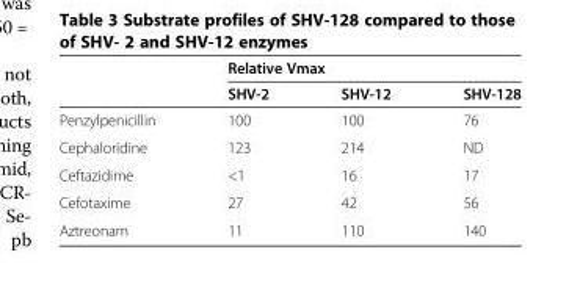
<table><thead><tr><td rowspan="2"></td><td colspan="3">Relative Vmax</td></tr><tr><td>SHV-2</td><td>SHV-12</td><td>SHV-128</td></tr></thead><tbody><tr><td>Penzylpenicillin</td><td>100</td><td>100</td><td>76</td></tr><tr><td>Cephaloridine</td><td>123</td><td>214</td><td>ND</td></tr><tr><td>Ceftazidime</td><td>&lt;1</td><td>16</td><td>17</td></tr><tr><td>Cefotaxime</td><td>27</td><td>42</td><td>56</td></tr><tr><td>Aztreonam</td><td>11</td><td>110</td><td>140</td></tr></tbody></table>